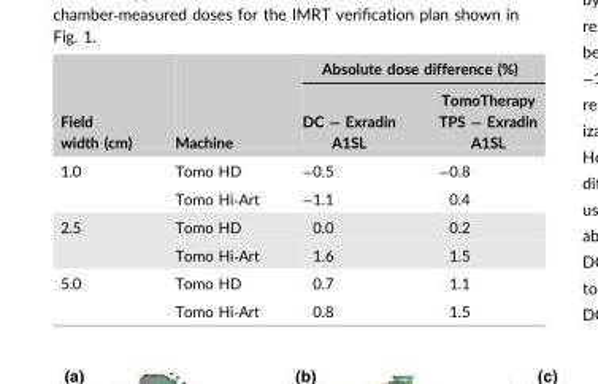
<table><thead><tr><td rowspan="2">Field width (cm)</td><td rowspan="2">Machine</td><td colspan="2">Absolute dose difference (%)</td></tr><tr><td>DC − Exradin A1SL</td><td>TomoTherapy TPS − Exradin A1SL</td></tr></thead><tbody><tr><td rowspan="2">1.0</td><td>Tomo HD</td><td>−0.5</td><td>−0.8</td></tr><tr><td>Tomo Hi‐Art</td><td>−1.1</td><td>0.4</td></tr><tr><td rowspan="2">2.5</td><td>Tomo HD</td><td>0.0</td><td>0.2</td></tr><tr><td>Tomo Hi‐Art</td><td>1.6</td><td>1.5</td></tr><tr><td rowspan="2">5.0</td><td>Tomo HD</td><td>0.7</td><td>1.1</td></tr><tr><td>Tomo Hi‐Art</td><td>0.8</td><td>1.5</td></tr></tbody></table>